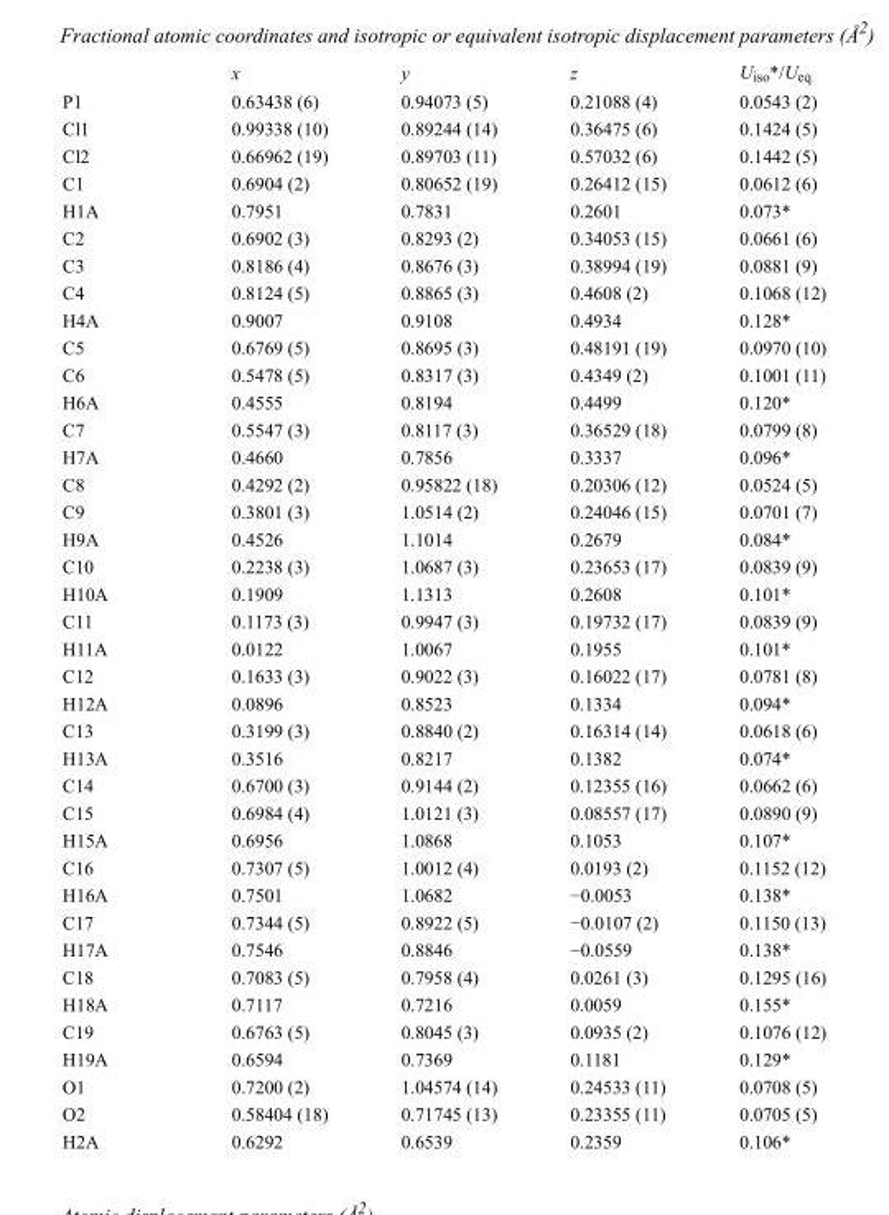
<table><thead><tr><td></td><td>x</td><td>y</td><td>z</td><td>U<sub>iso</sub>*/U<sub>eq</sub></td></tr></thead><tbody><tr><td>P1</td><td>0.63438 (6)</td><td>0.94073 (5)</td><td>0.21088 (4)</td><td>0.0543 (2)</td></tr><tr><td>Cl1</td><td>0.99338 (10)</td><td>0.89244 (14)</td><td>0.36475 (6)</td><td>0.1424 (5)</td></tr><tr><td>Cl2</td><td>0.66962 (19)</td><td>0.89703 (11)</td><td>0.57032 (6)</td><td>0.1442 (5)</td></tr><tr><td>C1</td><td>0.6904 (2)</td><td>0.80652 (19)</td><td>0.26412 (15)</td><td>0.0612 (6)</td></tr><tr><td>H1A</td><td>0.7951</td><td>0.7831</td><td>0.2601</td><td>0.073*</td></tr><tr><td>C2</td><td>0.6902 (3)</td><td>0.8293 (2)</td><td>0.34053 (15)</td><td>0.0661 (6)</td></tr><tr><td>C3</td><td>0.8186 (4)</td><td>0.8676 (3)</td><td>0.38994 (19)</td><td>0.0881 (9)</td></tr><tr><td>C4</td><td>0.8124 (5)</td><td>0.8865 (3)</td><td>0.4608 (2)</td><td>0.1068 (12)</td></tr><tr><td>H4A</td><td>0.9007</td><td>0.9108</td><td>0.4934</td><td>0.128*</td></tr><tr><td>C5</td><td>0.6769 (5)</td><td>0.8695 (3)</td><td>0.48191 (19)</td><td>0.0970 (10)</td></tr><tr><td>C6</td><td>0.5478 (5)</td><td>0.8317 (3)</td><td>0.4349 (2)</td><td>0.1001 (11)</td></tr><tr><td>H6A</td><td>0.4555</td><td>0.8194</td><td>0.4499</td><td>0.120*</td></tr><tr><td>C7</td><td>0.5547 (3)</td><td>0.8117 (3)</td><td>0.36529 (18)</td><td>0.0799 (8)</td></tr><tr><td>H7A</td><td>0.4660</td><td>0.7856</td><td>0.3337</td><td>0.096*</td></tr><tr><td>C8</td><td>0.4292 (2)</td><td>0.95822 (18)</td><td>0.20306 (12)</td><td>0.0524 (5)</td></tr><tr><td>C9</td><td>0.3801 (3)</td><td>1.0514 (2)</td><td>0.24046 (15)</td><td>0.0701 (7)</td></tr><tr><td>H9A</td><td>0.4526</td><td>1.1014</td><td>0.2679</td><td>0.084*</td></tr><tr><td>C10</td><td>0.2238 (3)</td><td>1.0687 (3)</td><td>0.23653 (17)</td><td>0.0839 (9)</td></tr><tr><td>H10A</td><td>0.1909</td><td>1.1313</td><td>0.2608</td><td>0.101*</td></tr><tr><td>C11</td><td>0.1173 (3)</td><td>0.9947 (3)</td><td>0.19732 (17)</td><td>0.0839 (9)</td></tr><tr><td>H11A</td><td>0.0122</td><td>1.0067</td><td>0.1955</td><td>0.101*</td></tr><tr><td>C12</td><td>0.1633 (3)</td><td>0.9022 (3)</td><td>0.16022 (17)</td><td>0.0781 (8)</td></tr><tr><td>H12A</td><td>0.0896</td><td>0.8523</td><td>0.1334</td><td>0.094*</td></tr><tr><td>C13</td><td>0.3199 (3)</td><td>0.8840 (2)</td><td>0.16314 (14)</td><td>0.0618 (6)</td></tr><tr><td>H13A</td><td>0.3516</td><td>0.8217</td><td>0.1382</td><td>0.074*</td></tr><tr><td>C14</td><td>0.6700 (3)</td><td>0.9144 (2)</td><td>0.12355 (16)</td><td>0.0662 (6)</td></tr><tr><td>C15</td><td>0.6984 (4)</td><td>1.0121 (3)</td><td>0.08557 (17)</td><td>0.0890 (9)</td></tr><tr><td>H15A</td><td>0.6956</td><td>1.0868</td><td>0.1053</td><td>0.107*</td></tr><tr><td>C16</td><td>0.7307 (5)</td><td>1.0012 (4)</td><td>0.0193 (2)</td><td>0.1152 (12)</td></tr><tr><td>H16A</td><td>0.7501</td><td>1.0682</td><td>−0.0053</td><td>0.138*</td></tr><tr><td>C17</td><td>0.7344 (5)</td><td>0.8922 (5)</td><td>−0.0107 (2)</td><td>0.1150 (13)</td></tr><tr><td>H17A</td><td>0.7546</td><td>0.8846</td><td>−0.0559</td><td>0.138*</td></tr><tr><td>C18</td><td>0.7083 (5)</td><td>0.7958 (4)</td><td>0.0261 (3)</td><td>0.1295 (16)</td></tr><tr><td>H18A</td><td>0.7117</td><td>0.7216</td><td>0.0059</td><td>0.155*</td></tr><tr><td>C19</td><td>0.6763 (5)</td><td>0.8045 (3)</td><td>0.0935 (2)</td><td>0.1076 (12)</td></tr><tr><td>H19A</td><td>0.6594</td><td>0.7369</td><td>0.1181</td><td>0.129*</td></tr><tr><td>O1</td><td>0.7200 (2)</td><td>1.04574 (14)</td><td>0.24533 (11)</td><td>0.0708 (5)</td></tr><tr><td>O2</td><td>0.58404 (18)</td><td>0.71745 (13)</td><td>0.23355 (11)</td><td>0.0705 (5)</td></tr><tr><td>H2A</td><td>0.6292</td><td>0.6539</td><td>0.2359</td><td>0.106*</td></tr></tbody></table>